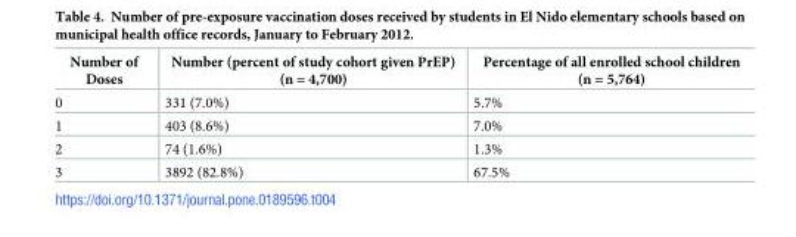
<table><thead><tr><td>Number of Doses</td><td>Number (percent of study cohort given PrEP) (n = 4,700)</td><td>Percentage of all enrolled school children (n = 5,764)</td></tr></thead><tbody><tr><td>0</td><td>331 (7.0%)</td><td>5.7%</td></tr><tr><td>1</td><td>403 (8.6%)</td><td>7.0%</td></tr><tr><td>2</td><td>74 (1.6%)</td><td>1.3%</td></tr><tr><td>3</td><td>3892 (82.8%)</td><td>67.5%</td></tr></tbody></table>